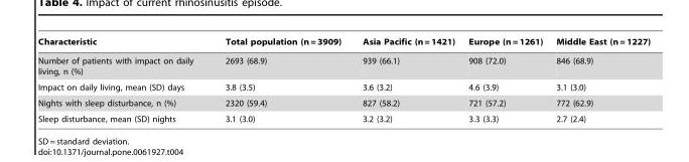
<table><thead><tr><td>Characteristic</td><td>Total population (n = 3909)</td><td>Asia Pacific (n = 1421)</td><td>Europe (n = 1261)</td><td>Middle East (n = 1227)</td></tr></thead><tbody><tr><td>Number of patients with impact on daily living, n (%)</td><td>2693 (68.9)</td><td>939 (66.1)</td><td>908 (72.0)</td><td>846 (68.9)</td></tr><tr><td>Impact on daily living, mean (SD) days</td><td>3.8 (3.5)</td><td>3.6 (3.2)</td><td>4.6 (3.9)</td><td>3.1 (3.0)</td></tr><tr><td>Nights with sleep disturbance, n (%)</td><td>2320 (59.4)</td><td>827 (58.2)</td><td>721 (57.2)</td><td>772 (62.9)</td></tr><tr><td>Sleep disturbance, mean (SD) nights</td><td>3.1 (3.0)</td><td>3.2 (3.2)</td><td>3.3 (3.3)</td><td>2.7 (2.4)</td></tr></tbody></table>